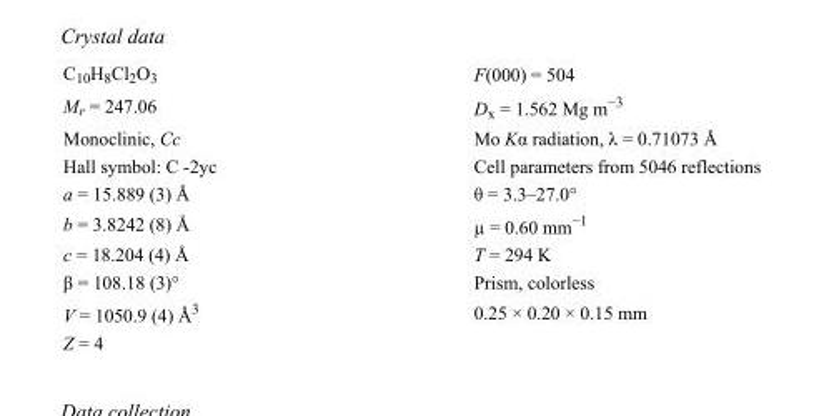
<table><tbody><tr><td>C<sub>10</sub>H<sub>8</sub>Cl<sub>2</sub>O<sub>3</sub></td><td>F(000) = 504</td></tr><tr><td>M<sub>r</sub> = 247.06</td><td>D<sub>x</sub> = 1.562 Mg m<sup>−3</sup></td></tr><tr><td>Monoclinic, Cc</td><td>Mo Kα radiation, λ = 0.71073 Å</td></tr><tr><td>Hall symbol: C -2yc</td><td>Cell parameters from 5046 reflections</td></tr><tr><td>a = 15.889 (3) Å</td><td>θ = 3.3–27.0°</td></tr><tr><td>b = 3.8242 (8) Å</td><td>µ = 0.60 mm<sup>−1</sup></td></tr><tr><td>c = 18.204 (4) Å</td><td>T = 294 K</td></tr><tr><td>β = 108.18 (3)°</td><td>Prism, colorless</td></tr><tr><td>V = 1050.9 (4) Å<sup>3</sup></td><td>0.25 × 0.20 × 0.15 mm</td></tr><tr><td>Z = 4</td><td></td></tr></tbody></table>